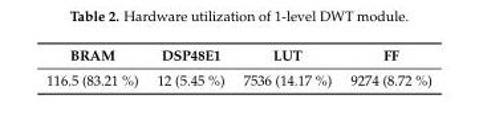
<table><thead><tr><td>BRAM</td><td>DSP48E1</td><td>LUT</td><td>FF</td></tr></thead><tbody><tr><td>116.5 (83.21 %)</td><td>12 (5.45 %)</td><td>7536 (14.17 %)</td><td>9274 (8.72 %)</td></tr></tbody></table>